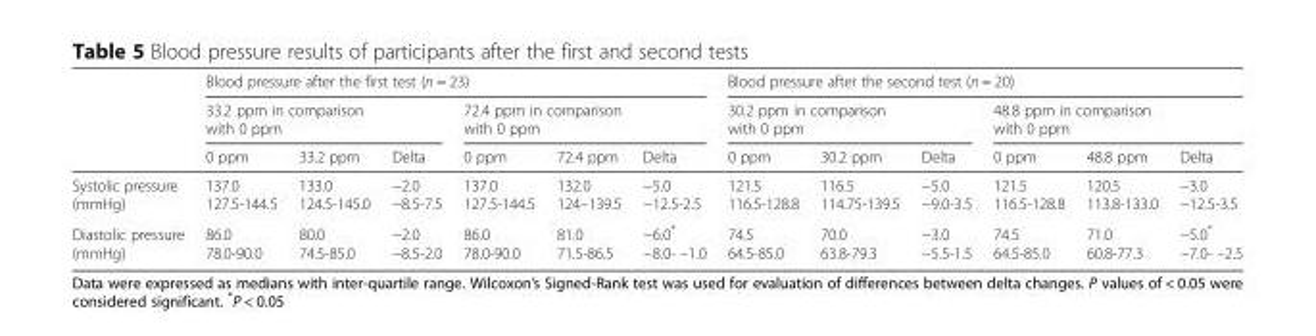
<table><thead><tr><td rowspan="3"></td><td colspan="6">Blood pressure after the first test (n = 23)</td><td colspan="6">Blood pressure after the second test (n = 20)</td></tr><tr><td colspan="3">33.2 ppm in comparison with 0 ppm</td><td colspan="3">72.4 ppm in comparison with 0 ppm</td><td colspan="3">30.2 ppm in comparison with 0 ppm</td><td colspan="3">48.8 ppm in comparison with 0 ppm</td></tr><tr><td>0 ppm</td><td>33.2 ppm</td><td>Delta</td><td>0 ppm</td><td>72.4 ppm</td><td>Delta</td><td>0 ppm</td><td>30.2 ppm</td><td>Delta</td><td>0 ppm</td><td>48.8 ppm</td><td>Delta</td></tr></thead><tbody><tr><td>Systolic pressure (mmHg)</td><td>137.0 127.5-144.5</td><td>133.0 124.5-145.0</td><td>−2.0 −8.5-7.5</td><td>137.0 127.5-144.5</td><td>132.0 124–139.5</td><td>−5.0 −12.5-2.5</td><td>121.5 116.5-128.8</td><td>116.5 114.75-139.5</td><td>−5.0 −9.0-3.5</td><td>121.5 116.5-128.8</td><td>120.5 113.8-133.0</td><td>−3.0 −12.5-3.5</td></tr><tr><td>Diastolic pressure (mmHg)</td><td>86.0 78.0-90.0</td><td>80.0 74.5-85.0</td><td>−2.0 −8.5-2.0</td><td>86.0 78.0-90.0</td><td>81.0 71.5-86.5</td><td>−6.0* −8.0- –1.0</td><td>74.5 64.5-85.0</td><td>70.0 63.8-79.3</td><td>−3.0 −5.5-1.5</td><td>74.5 64.5-85.0</td><td>71.0 60.8-77.3</td><td>−5.0* −7.0- –2.5</td></tr></tbody></table>